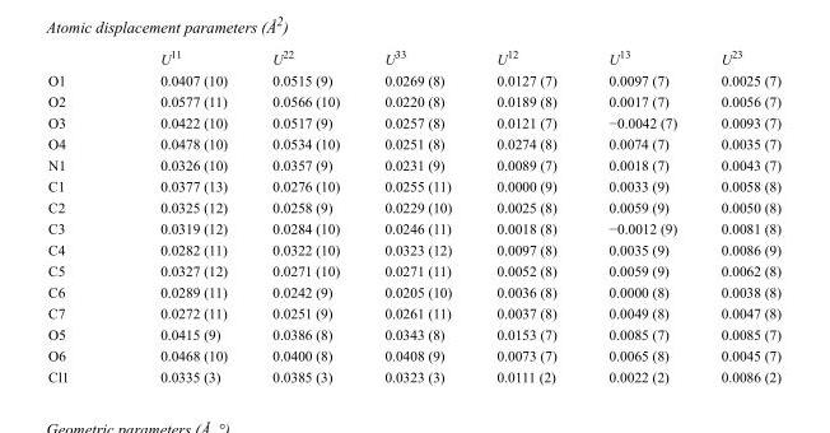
<table><thead><tr><td></td><td>U<sup>11</sup></td><td>U<sup>22</sup></td><td>U<sup>33</sup></td><td>U<sup>12</sup></td><td>U<sup>13</sup></td><td>U<sup>23</sup></td></tr></thead><tbody><tr><td>O1</td><td>0.0407 (10)</td><td>0.0515 (9)</td><td>0.0269 (8)</td><td>0.0127 (7)</td><td>0.0097 (7)</td><td>0.0025 (7)</td></tr><tr><td>O2</td><td>0.0577 (11)</td><td>0.0566 (10)</td><td>0.0220 (8)</td><td>0.0189 (8)</td><td>0.0017 (7)</td><td>0.0056 (7)</td></tr><tr><td>O3</td><td>0.0422 (10)</td><td>0.0517 (9)</td><td>0.0257 (8)</td><td>0.0121 (7)</td><td>−0.0042 (7)</td><td>0.0093 (7)</td></tr><tr><td>O4</td><td>0.0478 (10)</td><td>0.0534 (10)</td><td>0.0251 (8)</td><td>0.0274 (8)</td><td>0.0074 (7)</td><td>0.0035 (7)</td></tr><tr><td>N1</td><td>0.0326 (10)</td><td>0.0357 (9)</td><td>0.0231 (9)</td><td>0.0089 (7)</td><td>0.0018 (7)</td><td>0.0043 (7)</td></tr><tr><td>C1</td><td>0.0377 (13)</td><td>0.0276 (10)</td><td>0.0255 (11)</td><td>0.0000 (9)</td><td>0.0033 (9)</td><td>0.0058 (8)</td></tr><tr><td>C2</td><td>0.0325 (12)</td><td>0.0258 (9)</td><td>0.0229 (10)</td><td>0.0025 (8)</td><td>0.0059 (9)</td><td>0.0050 (8)</td></tr><tr><td>C3</td><td>0.0319 (12)</td><td>0.0284 (10)</td><td>0.0246 (11)</td><td>0.0018 (8)</td><td>−0.0012 (9)</td><td>0.0081 (8)</td></tr><tr><td>C4</td><td>0.0282 (11)</td><td>0.0322 (10)</td><td>0.0323 (12)</td><td>0.0097 (8)</td><td>0.0035 (9)</td><td>0.0086 (9)</td></tr><tr><td>C5</td><td>0.0327 (12)</td><td>0.0271 (10)</td><td>0.0271 (11)</td><td>0.0052 (8)</td><td>0.0059 (9)</td><td>0.0062 (8)</td></tr><tr><td>C6</td><td>0.0289 (11)</td><td>0.0242 (9)</td><td>0.0205 (10)</td><td>0.0036 (8)</td><td>0.0000 (8)</td><td>0.0038 (8)</td></tr><tr><td>C7</td><td>0.0272 (11)</td><td>0.0251 (9)</td><td>0.0261 (11)</td><td>0.0037 (8)</td><td>0.0049 (8)</td><td>0.0047 (8)</td></tr><tr><td>O5</td><td>0.0415 (9)</td><td>0.0386 (8)</td><td>0.0343 (8)</td><td>0.0153 (7)</td><td>0.0085 (7)</td><td>0.0085 (7)</td></tr><tr><td>O6</td><td>0.0468 (10)</td><td>0.0400 (8)</td><td>0.0408 (9)</td><td>0.0073 (7)</td><td>0.0065 (8)</td><td>0.0045 (7)</td></tr><tr><td>Cl1</td><td>0.0335 (3)</td><td>0.0385 (3)</td><td>0.0323 (3)</td><td>0.0111 (2)</td><td>0.0022 (2)</td><td>0.0086 (2)</td></tr></tbody></table>